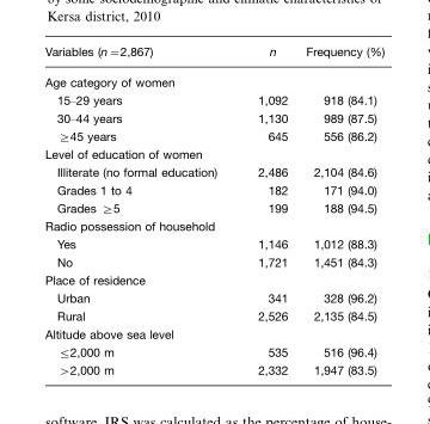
<table><thead><tr><td>Variables (n=2,867)</td><td>n</td><td>Frequency (%)</td></tr></thead><tbody><tr><td colspan="3">Age category of women</td></tr><tr><td>15–29 years</td><td>1,092</td><td>918 (84.1)</td></tr><tr><td>30–44 years</td><td>1,130</td><td>989 (87.5)</td></tr><tr><td>≥45 years</td><td>645</td><td>556 (86.2)</td></tr><tr><td colspan="3">Level of education of women</td></tr><tr><td>Illiterate (no formal education)</td><td>2,486</td><td>2,104 (84.6)</td></tr><tr><td>Grades 1 to 4</td><td>182</td><td>171 (94.0)</td></tr><tr><td>Grades ≥5</td><td>199</td><td>188 (94.5)</td></tr><tr><td colspan="3">Radio possession of household</td></tr><tr><td>Yes</td><td>1,146</td><td>1,012 (88.3)</td></tr><tr><td>No</td><td>1,721</td><td>1,451 (84.3)</td></tr><tr><td colspan="3">Place of residence</td></tr><tr><td>Urban</td><td>341</td><td>328 (96.2)</td></tr><tr><td>Rural</td><td>2,526</td><td>2,135 (84.5)</td></tr><tr><td colspan="3">Altitude above sea level</td></tr><tr><td>≤2,000 m</td><td>535</td><td>516 (96.4)</td></tr><tr><td>&gt;2,000 m</td><td>2,332</td><td>1,947 (83.5)</td></tr></tbody></table>